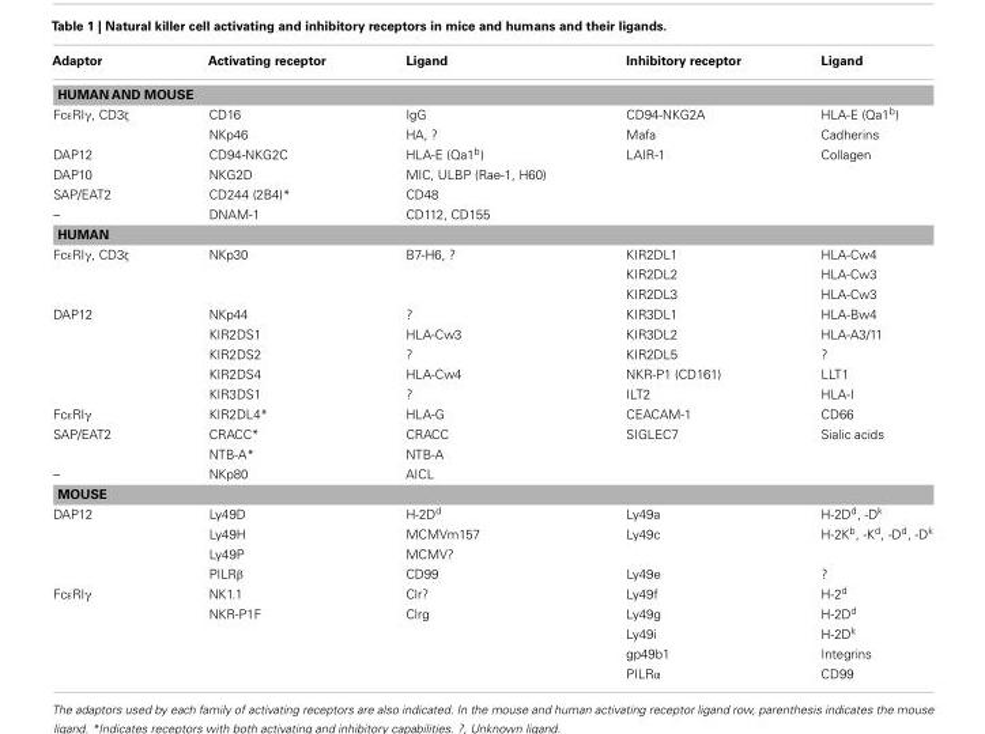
<table><thead><tr><td>Adaptor</td><td>Activating receptor</td><td>Ligand</td><td>Inhibitory receptor</td><td>Ligand</td></tr></thead><tbody><tr><td colspan="5">HUMAN AND MOUSE</td></tr><tr><td rowspan="2">FcεRIγ, CD3ζ</td><td>CD16</td><td>IgG</td><td>CD94-NKG2A</td><td>HLA-E (Qa1<sup>b</sup>)</td></tr><tr><td>NKp46</td><td>HA, ?</td><td>Mafa</td><td>Cadherins</td></tr><tr><td>DAP12</td><td>CD94-NKG2C</td><td>HLA-E (Qa1<sup>b</sup>)</td><td>LAIR-1</td><td>Collagen</td></tr><tr><td>DAP10</td><td>NKG2D</td><td>MIC, ULBP (Rae-1, H60)</td><td></td><td></td></tr><tr><td>SAP/EAT2</td><td>CD244 (2B4)*</td><td>CD48</td><td></td><td></td></tr><tr><td>–</td><td>DNAM-1</td><td>CD112, CD155</td><td></td><td></td></tr><tr><td colspan="5">HUMAN</td></tr><tr><td rowspan="3">FcεRIγ, CD3ζ</td><td>NKp30</td><td>B7-H6, ?</td><td>KIR2DL1</td><td>HLA-Cw4</td></tr><tr><td></td><td></td><td>KIR2DL2</td><td>HLA-Cw3</td></tr><tr><td></td><td></td><td>KIR2DL3</td><td>HLA-Cw3</td></tr><tr><td rowspan="5">DAP12</td><td>NKp44</td><td>?</td><td>KIR3DL1</td><td>HLA-Bw4</td></tr><tr><td>KIR2DS1</td><td>HLA-Cw3</td><td>KIR3DL2</td><td>HLA-A3/11</td></tr><tr><td>KIR2DS2</td><td>?</td><td>KIR2DL5</td><td>?</td></tr><tr><td>KIR2DS4</td><td>HLA-Cw4</td><td>NKR-P1 (CD161)</td><td>LLT1</td></tr><tr><td>KIR3DS1</td><td>?</td><td>ILT2</td><td>HLA-I</td></tr><tr><td>FcεRIγ</td><td>KIR2DL4*</td><td>HLA-G</td><td>CEACAM-1</td><td>CD66</td></tr><tr><td rowspan="2">SAP/EAT2</td><td>CRACC*</td><td>CRACC</td><td>SIGLEC7</td><td>Sialic acids</td></tr><tr><td>NTB-A*</td><td>NTB-A</td><td></td><td></td></tr><tr><td>–</td><td>NKp80</td><td>AICL</td><td></td><td></td></tr><tr><td colspan="5">MOUSE</td></tr><tr><td rowspan="4">DAP12</td><td>Ly49D</td><td>H-2D<sup>d</sup></td><td>Ly49a</td><td>H-2D<sup>d</sup>, -D<sup>k</sup></td></tr><tr><td>Ly49H</td><td>MCMVm157</td><td>Ly49c</td><td>H-2K<sup>b</sup>, -K<sup>d</sup>, -D<sup>d</sup>, -D<sup>k</sup></td></tr><tr><td>Ly49P</td><td>MCMV?</td><td></td><td></td></tr><tr><td>PILRβ</td><td>CD99</td><td>Ly49e</td><td>?</td></tr><tr><td rowspan="5">FcεRIγ</td><td>NK1.1</td><td>Clr?</td><td>Ly49f</td><td>H-2<sup>d</sup></td></tr><tr><td>NKR-P1F</td><td>Clrg</td><td>Ly49g</td><td>H-2D<sup>d</sup></td></tr><tr><td></td><td></td><td>Ly49i</td><td>H-2D<sup>k</sup></td></tr><tr><td></td><td></td><td>gp49b1</td><td>Integrins</td></tr><tr><td></td><td></td><td>PILRα</td><td>CD99</td></tr></tbody></table>